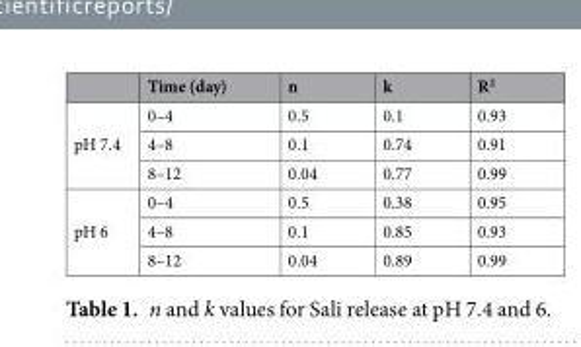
<table><thead><tr><td></td><td>Time (day)</td><td>n</td><td>k</td><td>R<sup>2</sup></td></tr></thead><tbody><tr><td rowspan="3">pH 7.4</td><td>0–4</td><td>0.5</td><td>0.1</td><td>0.93</td></tr><tr><td>4–8</td><td>0.1</td><td>0.74</td><td>0.91</td></tr><tr><td>8–12</td><td>0.04</td><td>0.77</td><td>0.99</td></tr><tr><td rowspan="3">pH 6</td><td>0–4</td><td>0.5</td><td>0.38</td><td>0.95</td></tr><tr><td>4–8</td><td>0.1</td><td>0.85</td><td>0.93</td></tr><tr><td>8–12</td><td>0.04</td><td>0.89</td><td>0.99</td></tr></tbody></table>